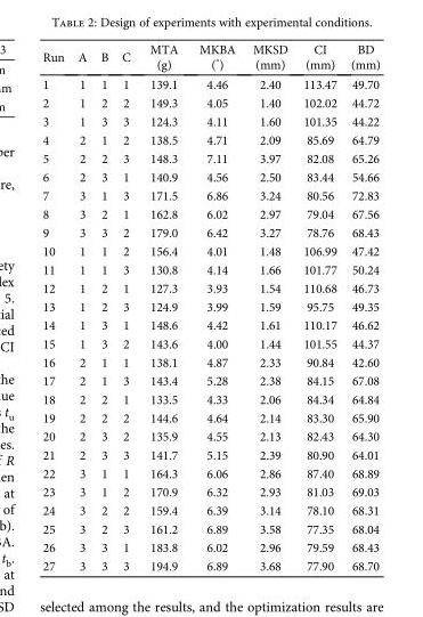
<table><thead><tr><td>Run</td><td>A</td><td>B</td><td>C</td><td>MTA (g)</td><td>MKBA (°)</td><td>MKSD (mm)</td><td>CI (mm)</td><td>BD (mm)</td></tr></thead><tbody><tr><td>1</td><td>1</td><td>1</td><td>1</td><td>139.1</td><td>4.46</td><td>2.40</td><td>113.47</td><td>49.70</td></tr><tr><td>2</td><td>1</td><td>2</td><td>2</td><td>149.3</td><td>4.05</td><td>1.40</td><td>102.02</td><td>44.72</td></tr><tr><td>3</td><td>1</td><td>3</td><td>3</td><td>124.3</td><td>4.11</td><td>1.60</td><td>101.35</td><td>44.22</td></tr><tr><td>4</td><td>2</td><td>1</td><td>2</td><td>138.5</td><td>4.71</td><td>2.09</td><td>85.69</td><td>64.79</td></tr><tr><td>5</td><td>2</td><td>2</td><td>3</td><td>148.3</td><td>7.11</td><td>3.97</td><td>82.08</td><td>65.26</td></tr><tr><td>6</td><td>2</td><td>3</td><td>1</td><td>140.9</td><td>4.56</td><td>2.50</td><td>83.44</td><td>54.66</td></tr><tr><td>7</td><td>3</td><td>1</td><td>3</td><td>171.5</td><td>6.86</td><td>3.24</td><td>80.56</td><td>72.83</td></tr><tr><td>8</td><td>3</td><td>2</td><td>1</td><td>162.8</td><td>6.02</td><td>2.97</td><td>79.04</td><td>67.56</td></tr><tr><td>9</td><td>3</td><td>3</td><td>2</td><td>179.0</td><td>6.42</td><td>3.27</td><td>78.76</td><td>68.43</td></tr><tr><td>10</td><td>1</td><td>1</td><td>2</td><td>156.4</td><td>4.01</td><td>1.48</td><td>106.99</td><td>47.42</td></tr><tr><td>11</td><td>1</td><td>1</td><td>3</td><td>130.8</td><td>4.14</td><td>1.66</td><td>101.77</td><td>50.24</td></tr><tr><td>12</td><td>1</td><td>2</td><td>1</td><td>127.3</td><td>3.93</td><td>1.54</td><td>110.68</td><td>46.73</td></tr><tr><td>13</td><td>1</td><td>2</td><td>3</td><td>124.9</td><td>3.99</td><td>1.59</td><td>95.75</td><td>49.35</td></tr><tr><td>14</td><td>1</td><td>3</td><td>1</td><td>148.6</td><td>4.42</td><td>1.61</td><td>110.17</td><td>46.62</td></tr><tr><td>15</td><td>1</td><td>3</td><td>2</td><td>143.6</td><td>4.00</td><td>1.44</td><td>101.55</td><td>44.37</td></tr><tr><td>16</td><td>2</td><td>1</td><td>1</td><td>138.1</td><td>4.87</td><td>2.33</td><td>90.84</td><td>42.60</td></tr><tr><td>17</td><td>2</td><td>1</td><td>3</td><td>143.4</td><td>5.28</td><td>2.38</td><td>84.15</td><td>67.08</td></tr><tr><td>18</td><td>2</td><td>2</td><td>1</td><td>133.5</td><td>4.33</td><td>2.06</td><td>84.34</td><td>64.84</td></tr><tr><td>19</td><td>2</td><td>2</td><td>2</td><td>144.6</td><td>4.64</td><td>2.14</td><td>83.30</td><td>65.90</td></tr><tr><td>20</td><td>2</td><td>3</td><td>2</td><td>135.9</td><td>4.55</td><td>2.13</td><td>82.43</td><td>64.30</td></tr><tr><td>21</td><td>2</td><td>3</td><td>3</td><td>141.7</td><td>5.15</td><td>2.39</td><td>80.90</td><td>64.01</td></tr><tr><td>22</td><td>3</td><td>1</td><td>1</td><td>164.3</td><td>6.06</td><td>2.86</td><td>87.40</td><td>68.89</td></tr><tr><td>23</td><td>3</td><td>1</td><td>2</td><td>170.9</td><td>6.32</td><td>2.93</td><td>81.03</td><td>69.03</td></tr><tr><td>24</td><td>3</td><td>2</td><td>2</td><td>159.4</td><td>6.39</td><td>3.14</td><td>78.10</td><td>68.31</td></tr><tr><td>25</td><td>3</td><td>2</td><td>3</td><td>161.2</td><td>6.89</td><td>3.58</td><td>77.35</td><td>68.04</td></tr><tr><td>26</td><td>3</td><td>3</td><td>1</td><td>183.8</td><td>6.02</td><td>2.96</td><td>79.59</td><td>68.43</td></tr><tr><td>27</td><td>3</td><td>3</td><td>3</td><td>194.9</td><td>6.89</td><td>3.68</td><td>77.90</td><td>68.70</td></tr></tbody></table>